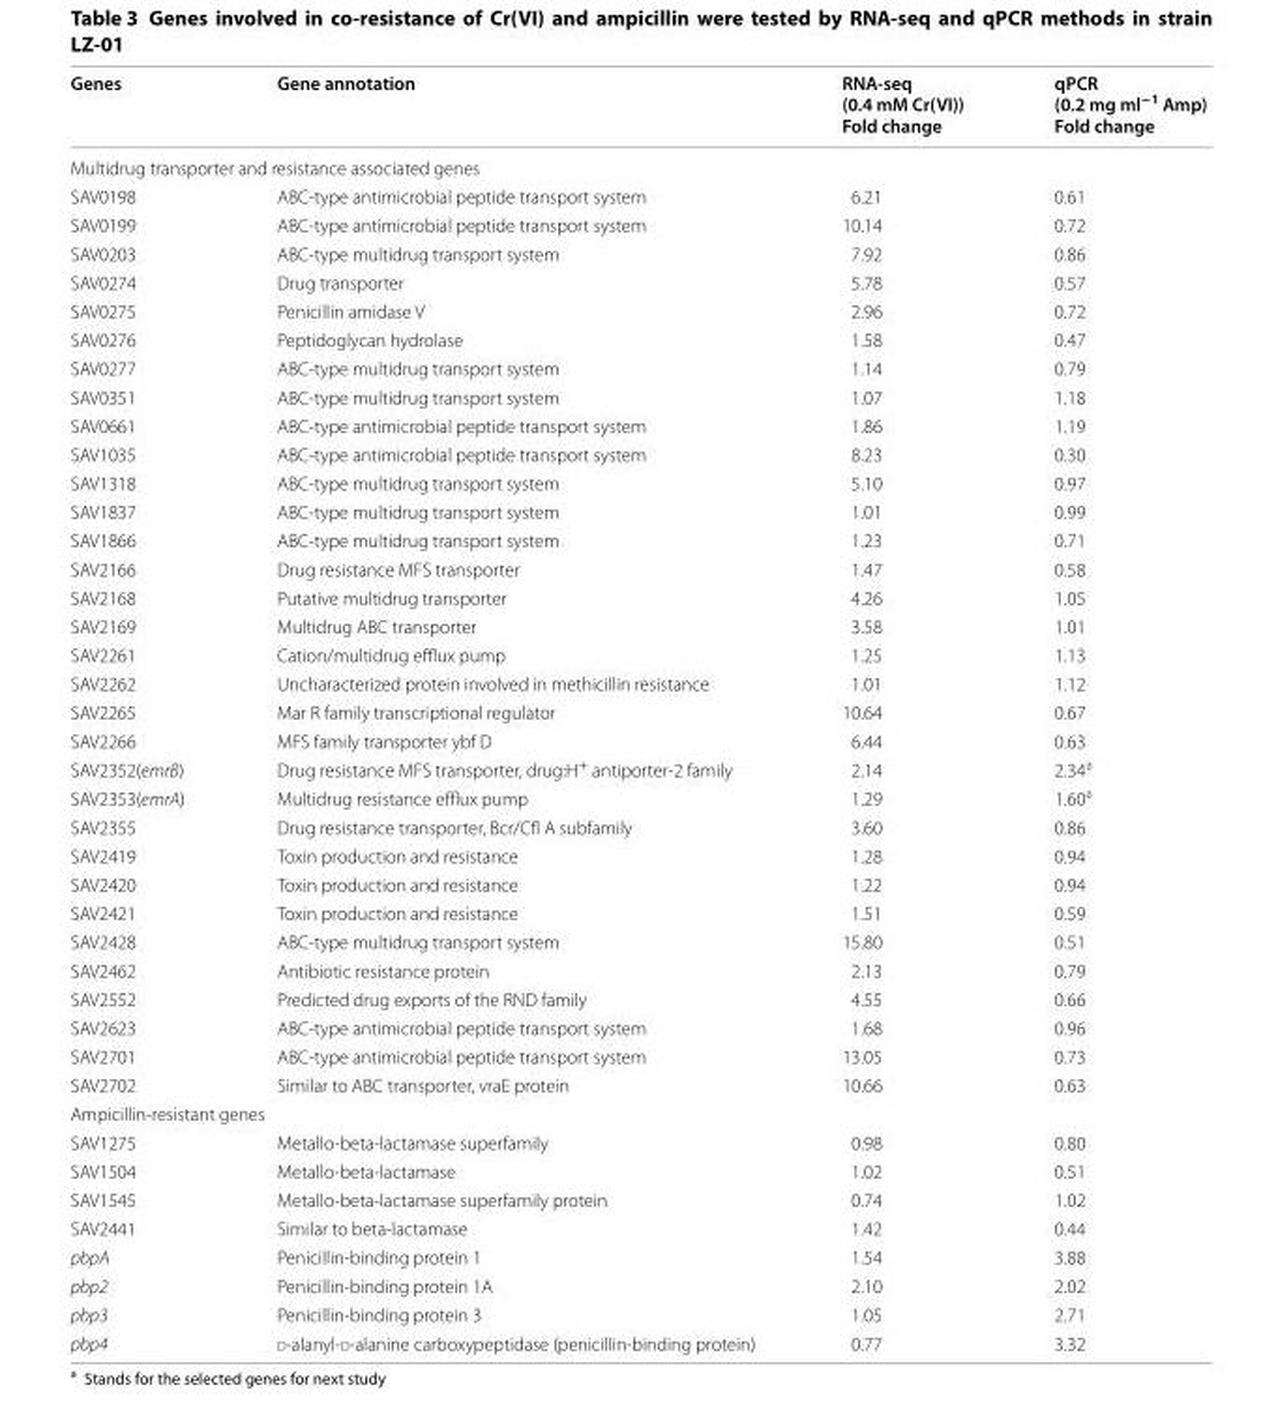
<table><thead><tr><td>Genes</td><td>Gene annotation</td><td>RNA‑seq (0.4 mM Cr(VI)) Fold change</td><td>qPCR (0.2 mg ml<sup>−1</sup> Amp) Fold change</td></tr></thead><tbody><tr><td colspan="4">Multidrug transporter and resistance associated genes</td></tr><tr><td>SAV0198</td><td>ABC-type antimicrobial peptide transport system</td><td>6.21</td><td>0.61</td></tr><tr><td>SAV0199</td><td>ABC-type antimicrobial peptide transport system</td><td>10.14</td><td>0.72</td></tr><tr><td>SAV0203</td><td>ABC-type multidrug transport system</td><td>7.92</td><td>0.86</td></tr><tr><td>SAV0274</td><td>Drug transporter</td><td>5.78</td><td>0.57</td></tr><tr><td>SAV0275</td><td>Penicillin amidase V</td><td>2.96</td><td>0.72</td></tr><tr><td>SAV0276</td><td>Peptidoglycan hydrolase</td><td>1.58</td><td>0.47</td></tr><tr><td>SAV0277</td><td>ABC-type multidrug transport system</td><td>1.14</td><td>0.79</td></tr><tr><td>SAV0351</td><td>ABC-type multidrug transport system</td><td>1.07</td><td>1.18</td></tr><tr><td>SAV0661</td><td>ABC-type antimicrobial peptide transport system</td><td>1.86</td><td>1.19</td></tr><tr><td>SAV1035</td><td>ABC-type antimicrobial peptide transport system</td><td>8.23</td><td>0.30</td></tr><tr><td>SAV1318</td><td>ABC-type multidrug transport system</td><td>5.10</td><td>0.97</td></tr><tr><td>SAV1837</td><td>ABC-type multidrug transport system</td><td>1.01</td><td>0.99</td></tr><tr><td>SAV1866</td><td>ABC-type multidrug transport system</td><td>1.23</td><td>0.71</td></tr><tr><td>SAV2166</td><td>Drug resistance MFS transporter</td><td>1.47</td><td>0.58</td></tr><tr><td>SAV2168</td><td>Putative multidrug transporter</td><td>4.26</td><td>1.05</td></tr><tr><td>SAV2169</td><td>Multidrug ABC transporter</td><td>3.58</td><td>1.01</td></tr><tr><td>SAV2261</td><td>Cation/multidrug efflux pump</td><td>1.25</td><td>1.13</td></tr><tr><td>SAV2262</td><td>Uncharacterized protein involved in methicillin resistance</td><td>1.01</td><td>1.12</td></tr><tr><td>SAV2265</td><td>Mar R family transcriptional regulator</td><td>10.64</td><td>0.67</td></tr><tr><td>SAV2266</td><td>MFS family transporter ybf D</td><td>6.44</td><td>0.63</td></tr><tr><td>SAV2352(emrB)</td><td>Drug resistance MFS transporter, drug:H<sup>+</sup> antiporter-2 family</td><td>2.14</td><td>2.34<sup>a</sup></td></tr><tr><td>SAV2353(emrA)</td><td>Multidrug resistance efflux pump</td><td>1.29</td><td>1.60<sup>a</sup></td></tr><tr><td>SAV2355</td><td>Drug resistance transporter, Bcr/Cfl A subfamily</td><td>3.60</td><td>0.86</td></tr><tr><td>SAV2419</td><td>Toxin production and resistance</td><td>1.28</td><td>0.94</td></tr><tr><td>SAV2420</td><td>Toxin production and resistance</td><td>1.22</td><td>0.94</td></tr><tr><td>SAV2421</td><td>Toxin production and resistance</td><td>1.51</td><td>0.59</td></tr><tr><td>SAV2428</td><td>ABC-type multidrug transport system</td><td>15.80</td><td>0.51</td></tr><tr><td>SAV2462</td><td>Antibiotic resistance protein</td><td>2.13</td><td>0.79</td></tr><tr><td>SAV2552</td><td>Predicted drug exports of the RND family</td><td>4.55</td><td>0.66</td></tr><tr><td>SAV2623</td><td>ABC-type antimicrobial peptide transport system</td><td>1.68</td><td>0.96</td></tr><tr><td>SAV2701</td><td>ABC-type antimicrobial peptide transport system</td><td>13.05</td><td>0.73</td></tr><tr><td>SAV2702</td><td>Similar to ABC transporter, vraE protein</td><td>10.66</td><td>0.63</td></tr><tr><td colspan="4">Ampicillin-resistant genes</td></tr><tr><td>SAV1275</td><td>Metallo-beta-lactamase superfamily</td><td>0.98</td><td>0.80</td></tr><tr><td>SAV1504</td><td>Metallo-beta-lactamase</td><td>1.02</td><td>0.51</td></tr><tr><td>SAV1545</td><td>Metallo-beta-lactamase superfamily protein</td><td>0.74</td><td>1.02</td></tr><tr><td>SAV2441</td><td>Similar to beta-lactamase</td><td>1.42</td><td>0.44</td></tr><tr><td>pbpA</td><td>Penicillin-binding protein 1</td><td>1.54</td><td>3.88</td></tr><tr><td>pbp2</td><td>Penicillin-binding protein 1A</td><td>2.10</td><td>2.02</td></tr><tr><td>pbp3</td><td>Penicillin-binding protein 3</td><td>1.05</td><td>2.71</td></tr><tr><td>pbp4</td><td>d-alanyl-d-alanine carboxypeptidase (penicillin-binding protein)</td><td>0.77</td><td>3.32</td></tr></tbody></table>